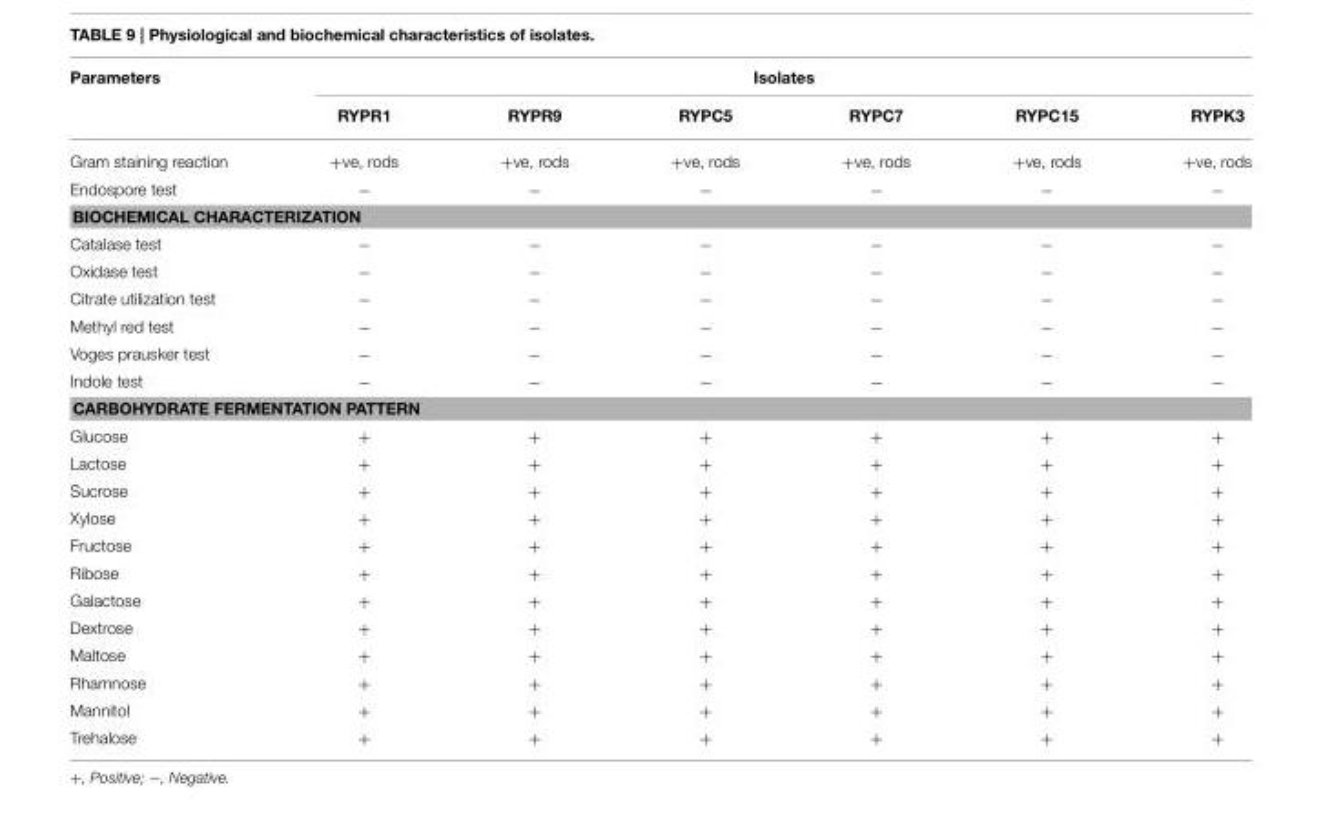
<table><thead><tr><td rowspan="2">Parameters</td><td colspan="6">Isolates</td></tr><tr><td>RYPR1</td><td>RYPR9</td><td>RYPC5</td><td>RYPC7</td><td>RYPC15</td><td>RYPK3</td></tr></thead><tbody><tr><td>Gram staining reaction</td><td>+ve, rods</td><td>+ve, rods</td><td>+ve, rods</td><td>+ve, rods</td><td>+ve, rods</td><td>+ve, rods</td></tr><tr><td>Endospore test</td><td>−</td><td>−</td><td>−</td><td>−</td><td>−</td><td>−</td></tr><tr><td colspan="7">BIOCHEMICAL CHARACTERIZATION</td></tr><tr><td>Catalase test</td><td>−</td><td>−</td><td>−</td><td>−</td><td>−</td><td>−</td></tr><tr><td>Oxidase test</td><td>−</td><td>−</td><td>−</td><td>−</td><td>−</td><td>−</td></tr><tr><td>Citrate utilization test</td><td>−</td><td>−</td><td>−</td><td>−</td><td>−</td><td>−</td></tr><tr><td>Methyl red test</td><td>−</td><td>−</td><td>−</td><td>−</td><td>−</td><td>−</td></tr><tr><td>Voges prausker test</td><td>−</td><td>−</td><td>−</td><td>−</td><td>−</td><td>−</td></tr><tr><td>Indole test</td><td>−</td><td>−</td><td>−</td><td>−</td><td>−</td><td>−</td></tr><tr><td colspan="7">CARBOHYDRATE FERMENTATION PATTERN</td></tr><tr><td>Glucose</td><td>+</td><td>+</td><td>+</td><td>+</td><td>+</td><td>+</td></tr><tr><td>Lactose</td><td>+</td><td>+</td><td>+</td><td>+</td><td>+</td><td>+</td></tr><tr><td>Sucrose</td><td>+</td><td>+</td><td>+</td><td>+</td><td>+</td><td>+</td></tr><tr><td>Xylose</td><td>+</td><td>+</td><td>+</td><td>+</td><td>+</td><td>+</td></tr><tr><td>Fructose</td><td>+</td><td>+</td><td>+</td><td>+</td><td>+</td><td>+</td></tr><tr><td>Ribose</td><td>+</td><td>+</td><td>+</td><td>+</td><td>+</td><td>+</td></tr><tr><td>Galactose</td><td>+</td><td>+</td><td>+</td><td>+</td><td>+</td><td>+</td></tr><tr><td>Dextrose</td><td>+</td><td>+</td><td>+</td><td>+</td><td>+</td><td>+</td></tr><tr><td>Maltose</td><td>+</td><td>+</td><td>+</td><td>+</td><td>+</td><td>+</td></tr><tr><td>Rhamnose</td><td>+</td><td>+</td><td>+</td><td>+</td><td>+</td><td>+</td></tr><tr><td>Mannitol</td><td>+</td><td>+</td><td>+</td><td>+</td><td>+</td><td>+</td></tr><tr><td>Trehalose</td><td>+</td><td>+</td><td>+</td><td>+</td><td>+</td><td>+</td></tr></tbody></table>